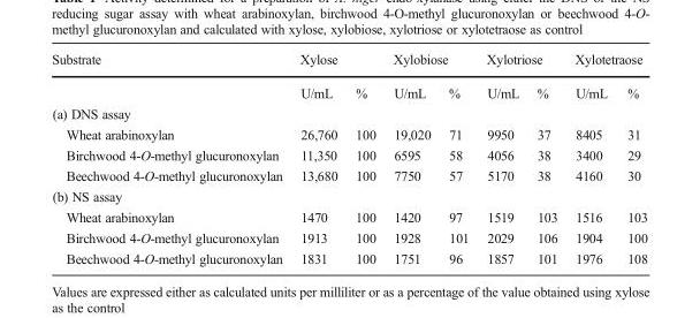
<table><thead><tr><td rowspan="2">Substrate</td><td colspan="2">Xylose</td><td colspan="2">Xylobiose</td><td colspan="2">Xylotriose</td><td colspan="2">Xylotetraose</td></tr><tr><td>U/mL</td><td>%</td><td>U/mL</td><td>%</td><td>U/mL</td><td>%</td><td>U/mL</td><td>%</td></tr></thead><tbody><tr><td colspan="9">(a) DNS assay</td></tr><tr><td>Wheat arabinoxylan</td><td>26,760</td><td>100</td><td>19,020</td><td>71</td><td>9950</td><td>37</td><td>8405</td><td>31</td></tr><tr><td>Birchwood 4-O-methyl glucuronoxylan</td><td>11,350</td><td>100</td><td>6595</td><td>58</td><td>4056</td><td>38</td><td>3400</td><td>29</td></tr><tr><td>Beechwood 4-O-methyl glucuronoxylan</td><td>13,680</td><td>100</td><td>7750</td><td>57</td><td>5170</td><td>38</td><td>4160</td><td>30</td></tr><tr><td colspan="9">(b) NS assay</td></tr><tr><td>Wheat arabinoxylan</td><td>1470</td><td>100</td><td>1420</td><td>97</td><td>1519</td><td>103</td><td>1516</td><td>103</td></tr><tr><td>Birchwood 4-O-methyl glucuronoxylan</td><td>1913</td><td>100</td><td>1928</td><td>101</td><td>2029</td><td>106</td><td>1904</td><td>100</td></tr><tr><td>Beechwood 4-O-methyl glucuronoxylan</td><td>1831</td><td>100</td><td>1751</td><td>96</td><td>1857</td><td>101</td><td>1976</td><td>108</td></tr></tbody></table>